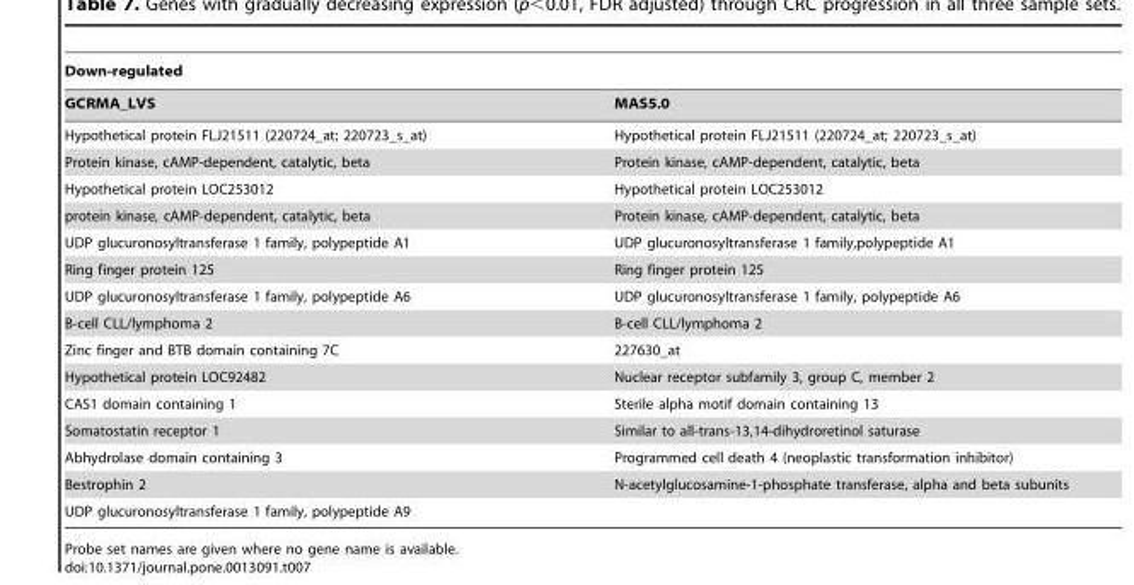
<table><thead><tr><td colspan="2">Down-regulated</td></tr><tr><td>GCRMA_LVS</td><td>MAS5.0</td></tr></thead><tbody><tr><td>Hypothetical protein FLJ21511 (220724_at; 220723_s_at)</td><td>Hypothetical protein FLJ21511 (220724_at; 220723_s_at)</td></tr><tr><td>Protein kinase, cAMP-dependent, catalytic, beta</td><td>Protein kinase, cAMP-dependent, catalytic, beta</td></tr><tr><td>Hypothetical protein LOC253012</td><td>Hypothetical protein LOC253012</td></tr><tr><td>protein kinase, cAMP-dependent, catalytic, beta</td><td>Protein kinase, cAMP-dependent, catalytic, beta</td></tr><tr><td>UDP glucuronosyltransferase 1 family, polypeptide A1</td><td>UDP glucuronosyltransferase 1 family,polypeptide A1</td></tr><tr><td>Ring finger protein 125</td><td>Ring finger protein 125</td></tr><tr><td>UDP glucuronosyltransferase 1 family, polypeptide A6</td><td>UDP glucuronosyltransferase 1 family, polypeptide A6</td></tr><tr><td>B-cell CLL/lymphoma 2</td><td>B-cell CLL/lymphoma 2</td></tr><tr><td>Zinc finger and BTB domain containing 7C</td><td>227630_at</td></tr><tr><td>Hypothetical protein LOC92482</td><td>Nuclear receptor subfamily 3, group C, member 2</td></tr><tr><td>CAS1 domain containing 1</td><td>Sterile alpha motif domain containing 13</td></tr><tr><td>Somatostatin receptor 1</td><td>Similar to all-trans-13,14-dihydroretinol saturase</td></tr><tr><td>Abhydrolase domain containing 3</td><td>Programmed cell death 4 (neoplastic transformation inhibitor)</td></tr><tr><td>Bestrophin 2</td><td>N-acetylglucosamine-1-phosphate transferase, alpha and beta subunits</td></tr><tr><td>UDP glucuronosyltransferase 1 family, polypeptide A9</td><td></td></tr></tbody></table>